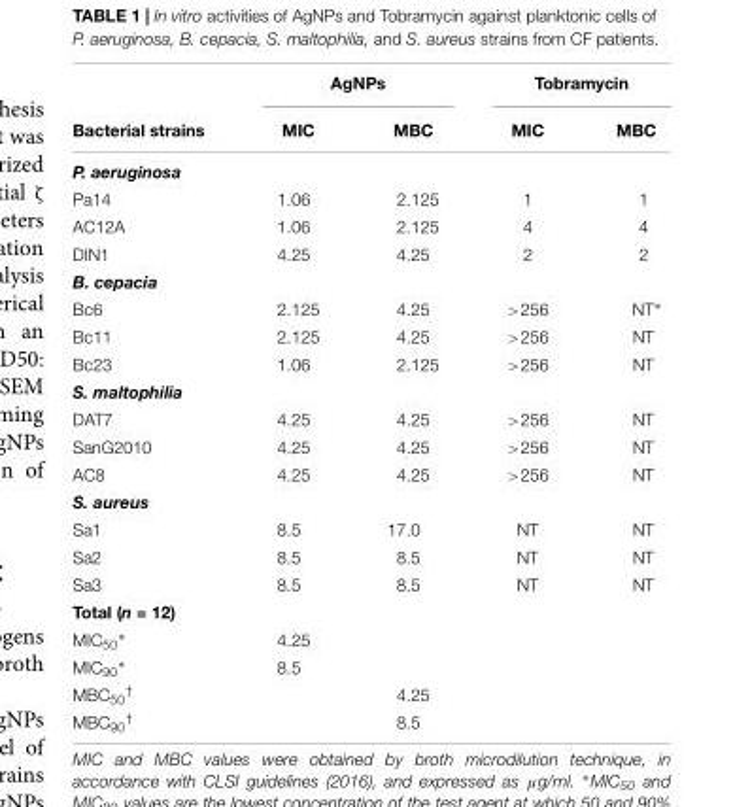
<table><thead><tr><td rowspan="2">Bacterial strains</td><td colspan="2">AgNPs</td><td colspan="2">Tobramycin</td></tr><tr><td>MIC</td><td>MBC</td><td>MIC</td><td>MBC</td></tr></thead><tbody><tr><td colspan="5">P. aeruginosa</td></tr><tr><td>Pa14</td><td>1.06</td><td>2.125</td><td>1</td><td>1</td></tr><tr><td>AC12A</td><td>1.06</td><td>2.125</td><td>4</td><td>4</td></tr><tr><td>DIN1</td><td>4.25</td><td>4.25</td><td>2</td><td>2</td></tr><tr><td colspan="5">B. cepacia</td></tr><tr><td>Bc6</td><td>2.125</td><td>4.25</td><td>&gt;256</td><td>NT∗</td></tr><tr><td>Bc11</td><td>2.125</td><td>4.25</td><td>&gt;256</td><td>NT</td></tr><tr><td>Bc23</td><td>1.06</td><td>2.125</td><td>&gt;256</td><td>NT</td></tr><tr><td colspan="5">S. maltophilia</td></tr><tr><td>DAT7</td><td>4.25</td><td>4.25</td><td>&gt;256</td><td>NT</td></tr><tr><td>SanG2010</td><td>4.25</td><td>4.25</td><td>&gt;256</td><td>NT</td></tr><tr><td>AC8</td><td>4.25</td><td>4.25</td><td>&gt;256</td><td>NT</td></tr><tr><td colspan="5">S. aureus</td></tr><tr><td>Sa1</td><td>8.5</td><td>17.0</td><td>NT</td><td>NT</td></tr><tr><td>Sa2</td><td>8.5</td><td>8.5</td><td>NT</td><td>NT</td></tr><tr><td>Sa3</td><td>8.5</td><td>8.5</td><td>NT</td><td>NT</td></tr><tr><td colspan="5">Total (n = 12)</td></tr><tr><td>MIC<sub>50</sub>∗</td><td>4.25</td><td></td><td></td><td></td></tr><tr><td>MIC<sub>90</sub>∗</td><td>8.5</td><td></td><td></td><td></td></tr><tr><td>MBC<sub>50</sub><sup>†</sup></td><td></td><td>4.25</td><td></td><td></td></tr><tr><td>MBC<sub>90</sub><sup>†</sup></td><td></td><td>8.5</td><td></td><td></td></tr></tbody></table>